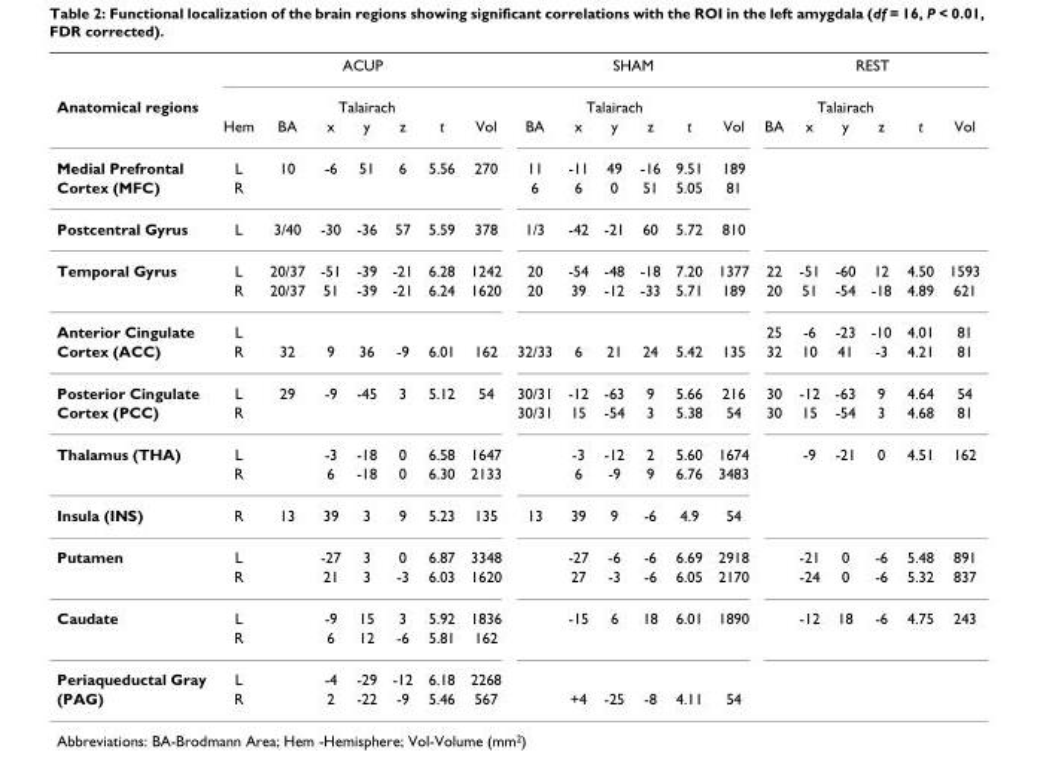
<table><thead><tr><td rowspan="3">Anatomical regions</td><td colspan="7">ACUP</td><td colspan="6">SHAM</td><td colspan="6">REST</td></tr><tr><td rowspan="2">Hem</td><td rowspan="2">BA</td><td colspan="3">Talairach</td><td rowspan="2">t</td><td rowspan="2">Vol</td><td rowspan="2">BA</td><td colspan="3">Talairach</td><td rowspan="2">t</td><td rowspan="2">Vol</td><td rowspan="2">BA</td><td colspan="3">Talairach</td><td rowspan="2">t</td><td rowspan="2">Vol</td></tr><tr><td>x</td><td>y</td><td>z</td><td>x</td><td>y</td><td>z</td><td>x</td><td>y</td><td>z</td></tr></thead><tbody><tr><td>Medial Prefrontal</td><td>L</td><td>10</td><td>-6</td><td>51</td><td>6</td><td>5.56</td><td>270</td><td>11</td><td>-11</td><td>49</td><td>-16</td><td>9.51</td><td>189</td><td></td><td></td><td></td><td></td><td></td><td></td></tr><tr><td>Cortex (MFC)</td><td>R</td><td></td><td></td><td></td><td></td><td></td><td></td><td>6</td><td>6</td><td>0</td><td>51</td><td>5.05</td><td>81</td><td></td><td></td><td></td><td></td><td></td><td></td></tr><tr><td>Postcentral Gyrus</td><td>L</td><td>3/40</td><td>-30</td><td>-36</td><td>57</td><td>5.59</td><td>378</td><td>1/3</td><td>-42</td><td>-21</td><td>60</td><td>5.72</td><td>810</td><td></td><td></td><td></td><td></td><td></td><td></td></tr><tr><td rowspan="2">Temporal Gyrus</td><td>L</td><td>20/37</td><td>-51</td><td>-39</td><td>-21</td><td>6.28</td><td>1242</td><td>20</td><td>-54</td><td>-48</td><td>-18</td><td>7.20</td><td>1377</td><td>22</td><td>-51</td><td>-60</td><td>12</td><td>4.50</td><td>1593</td></tr><tr><td>R</td><td>20/37</td><td>51</td><td>-39</td><td>-21</td><td>6.24</td><td>1620</td><td>20</td><td>39</td><td>-12</td><td>-33</td><td>5.71</td><td>189</td><td>20</td><td>51</td><td>-54</td><td>-18</td><td>4.89</td><td>621</td></tr><tr><td>Anterior Cingulate</td><td>L</td><td></td><td></td><td></td><td></td><td></td><td></td><td></td><td></td><td></td><td></td><td></td><td></td><td>25</td><td>-6</td><td>-23</td><td>-10</td><td>4.01</td><td>81</td></tr><tr><td>Cortex (ACC)</td><td>R</td><td>32</td><td>9</td><td>36</td><td>-9</td><td>6.01</td><td>162</td><td>32/33</td><td>6</td><td>21</td><td>24</td><td>5.42</td><td>135</td><td>32</td><td>10</td><td>41</td><td>-3</td><td>4.21</td><td>81</td></tr><tr><td>Posterior Cingulate</td><td>L</td><td>29</td><td>-9</td><td>-45</td><td>3</td><td>5.12</td><td>54</td><td>30/31</td><td>-12</td><td>-63</td><td>9</td><td>5.66</td><td>216</td><td>30</td><td>-12</td><td>-63</td><td>9</td><td>4.64</td><td>54</td></tr><tr><td>Cortex (PCC)</td><td>R</td><td></td><td></td><td></td><td></td><td></td><td></td><td>30/31</td><td>15</td><td>-54</td><td>3</td><td>5.38</td><td>54</td><td>30</td><td>15</td><td>-54</td><td>3</td><td>4.68</td><td>81</td></tr><tr><td rowspan="2">Thalamus (THA)</td><td>L</td><td></td><td>-3</td><td>-18</td><td>0</td><td>6.58</td><td>1647</td><td></td><td>-3</td><td>-12</td><td>2</td><td>5.60</td><td>1674</td><td></td><td>-9</td><td>-21</td><td>0</td><td>4.51</td><td>162</td></tr><tr><td>R</td><td></td><td>6</td><td>-18</td><td>0</td><td>6.30</td><td>2133</td><td></td><td>6</td><td>-9</td><td>9</td><td>6.76</td><td>3483</td><td></td><td></td><td></td><td></td><td></td><td></td></tr><tr><td>Insula (INS)</td><td>R</td><td>13</td><td>39</td><td>3</td><td>9</td><td>5.23</td><td>135</td><td>13</td><td>39</td><td>9</td><td>-6</td><td>4.9</td><td>54</td><td></td><td></td><td></td><td></td><td></td><td></td></tr><tr><td rowspan="2">Putamen</td><td>L</td><td></td><td>-27</td><td>3</td><td>0</td><td>6.87</td><td>3348</td><td></td><td>-27</td><td>-6</td><td>-6</td><td>6.69</td><td>2918</td><td></td><td>-21</td><td>0</td><td>-6</td><td>5.48</td><td>891</td></tr><tr><td>R</td><td></td><td>21</td><td>3</td><td>-3</td><td>6.03</td><td>1620</td><td></td><td>27</td><td>-3</td><td>-6</td><td>6.05</td><td>2170</td><td></td><td>-24</td><td>0</td><td>-6</td><td>5.32</td><td>837</td></tr><tr><td rowspan="2">Caudate</td><td>L</td><td></td><td>-9</td><td>15</td><td>3</td><td>5.92</td><td>1836</td><td></td><td>-15</td><td>6</td><td>18</td><td>6.01</td><td>1890</td><td></td><td>-12</td><td>18</td><td>-6</td><td>4.75</td><td>243</td></tr><tr><td>R</td><td></td><td>6</td><td>12</td><td>-6</td><td>5.81</td><td>162</td><td></td><td></td><td></td><td></td><td></td><td></td><td></td><td></td><td></td><td></td><td></td><td></td></tr><tr><td>Periaqueductal Gray</td><td>L</td><td></td><td>-4</td><td>-29</td><td>-12</td><td>6.18</td><td>2268</td><td></td><td></td><td></td><td></td><td></td><td></td><td></td><td></td><td></td><td></td><td></td><td></td></tr><tr><td>(PAG)</td><td>R</td><td></td><td>2</td><td>-22</td><td>-9</td><td>5.46</td><td>567</td><td></td><td>+4</td><td>-25</td><td>-8</td><td>4.11</td><td>54</td><td></td><td></td><td></td><td></td><td></td><td></td></tr></tbody></table>